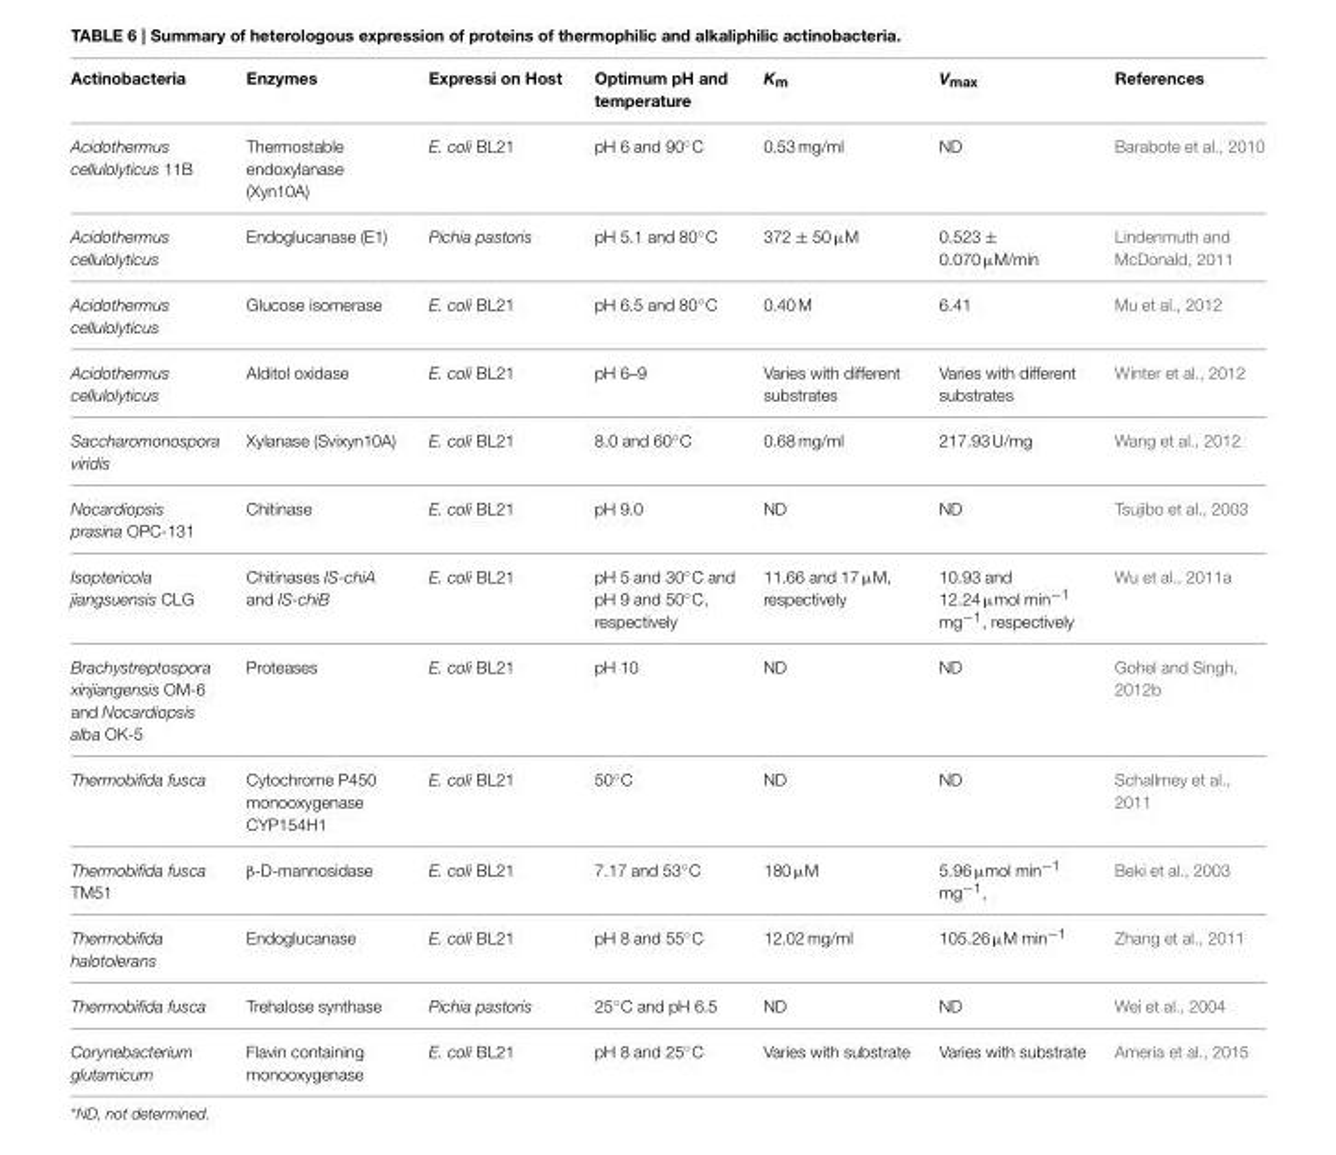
<table><thead><tr><td>Actinobacteria</td><td>Enzymes</td><td>Expressi on Host</td><td>Optimum pH and temperature</td><td>K<sub>m</sub></td><td>V<sub>max</sub></td><td>References</td></tr></thead><tbody><tr><td>Acidothermus cellulolyticus 11B</td><td>Thermostable endoxylanase (Xyn10A)</td><td>E. coli BL21</td><td>pH 6 and 90◦C</td><td>0.53 mg/ml</td><td>ND</td><td>Barabote et al., 2010</td></tr><tr><td>Acidothermus cellulolyticus</td><td>Endoglucanase (E1)</td><td>Pichia pastoris</td><td>pH 5.1 and 80◦C</td><td>372 ± 50 µM</td><td>0.523 ± 0.070 µM/min</td><td>Lindenmuth and McDonald, 2011</td></tr><tr><td>Acidothermus cellulolyticus</td><td>Glucose isomerase</td><td>E. coli BL21</td><td>pH 6.5 and 80◦C</td><td>0.40 M</td><td>6.41</td><td>Mu et al., 2012</td></tr><tr><td>Acidothermus cellulolyticus</td><td>Alditol oxidase</td><td>E. coli BL21</td><td>pH 6–9</td><td>Varies with different substrates</td><td>Varies with different substrates</td><td>Winter et al., 2012</td></tr><tr><td>Saccharomonospora viridis</td><td>Xylanase (Svixyn10A)</td><td>E. coli BL21</td><td>8.0 and 60◦C</td><td>0.68 mg/ml</td><td>217.93 U/mg</td><td>Wang et al., 2012</td></tr><tr><td>Nocardiopsis prasina OPC-131</td><td>Chitinase</td><td>E. coli BL21</td><td>pH 9.0</td><td>ND</td><td>ND</td><td>Tsujibo et al., 2003</td></tr><tr><td>Isoptericola jiangsuensis CLG</td><td>Chitinases IS-chiA and IS-chiB</td><td>E. coli BL21</td><td>pH 5 and 30◦C and pH 9 and 50◦C, respectively</td><td>11.66 and 17 µM, respectively</td><td>10.93 and 12.24 µmol min<sup>−1</sup> mg<sup>−1</sup>, respectively</td><td>Wu et al., 2011a</td></tr><tr><td>Brachystreptospora xinjiangensis OM-6 and Nocardiopsis alba OK-5</td><td>Proteases</td><td>E. coli BL21</td><td>pH 10</td><td>ND</td><td>ND</td><td>Gohel and Singh, 2012b</td></tr><tr><td>Thermobifida fusca</td><td>Cytochrome P450 monooxygenase CYP154H1</td><td>E. coli BL21</td><td>50◦C</td><td>ND</td><td>ND</td><td>Schallmey et al., 2011</td></tr><tr><td>Thermobifida fusca TM51</td><td>β-D-mannosidase</td><td>E. coli BL21</td><td>7.17 and 53◦C</td><td>180 µM</td><td>5.96 µmol min<sup>−1</sup> mg<sup>−1</sup>,</td><td>Beki et al., 2003</td></tr><tr><td>Thermobifida halotolerans</td><td>Endoglucanase</td><td>E. coli BL21</td><td>pH 8 and 55◦C</td><td>12.02 mg/ml</td><td>105.26 µM min<sup>−1</sup></td><td>Zhang et al., 2011</td></tr><tr><td>Thermobifida fusca</td><td>Trehalose synthase</td><td>Pichia pastoris</td><td>25◦C and pH 6.5</td><td>ND</td><td>ND</td><td>Wei et al., 2004</td></tr><tr><td>Corynebacterium glutamicum</td><td>Flavin containing monooxygenase</td><td>E. coli BL21</td><td>pH 8 and 25◦C</td><td>Varies with substrate</td><td>Varies with substrate</td><td>Ameria et al., 2015</td></tr></tbody></table>